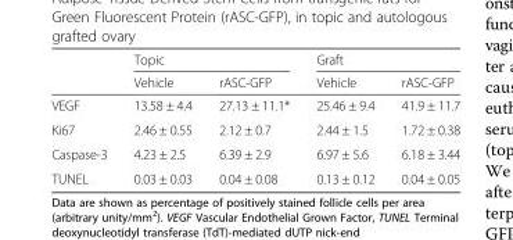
<table><thead><tr><td rowspan="2"></td><td colspan="2">Topic</td><td colspan="2">Graft</td></tr><tr><td>Vehicle</td><td>rASC-GFP</td><td>Vehicle</td><td>rASC-GFP</td></tr></thead><tbody><tr><td>VEGF</td><td>13.58 ± 4.4</td><td>27.13 ± 11.1*</td><td>25.46 ± 9.4</td><td>41.9 ± 11.7</td></tr><tr><td>Ki67</td><td>2.46 ± 0.55</td><td>2.12 ± 0.7</td><td>2.44 ± 1.5</td><td>1.72 ± 0.38</td></tr><tr><td>Caspase-3</td><td>4.23 ± 2.5</td><td>6.39 ± 2.9</td><td>6.97 ± 5.6</td><td>6.18 ± 3.44</td></tr><tr><td>TUNEL</td><td>0.03 ± 0.03</td><td>0.04 ± 0.08</td><td>0.13 ± 0.12</td><td>0.04 ± 0.05</td></tr></tbody></table>